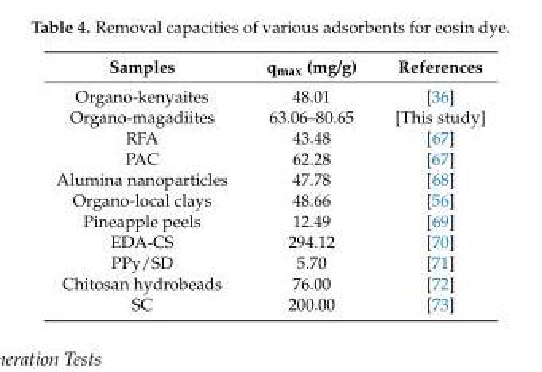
<table><thead><tr><td>Samples</td><td>q<sub>max</sub> (mg/g)</td><td>References</td></tr></thead><tbody><tr><td>Organo-kenyaites</td><td>48.01</td><td>[36]</td></tr><tr><td>Organo-magadiites</td><td>63.06–80.65</td><td>[This study]</td></tr><tr><td>RFA</td><td>43.48</td><td>[67]</td></tr><tr><td>PAC</td><td>62.28</td><td>[67]</td></tr><tr><td>Alumina nanoparticles</td><td>47.78</td><td>[68]</td></tr><tr><td>Organo-local clays</td><td>48.66</td><td>[56]</td></tr><tr><td>Pineapple peels</td><td>12.49</td><td>[69]</td></tr><tr><td>EDA-CS</td><td>294.12</td><td>[70]</td></tr><tr><td>PPy/SD</td><td>5.70</td><td>[71]</td></tr><tr><td>Chitosan hydrobeads</td><td>76.00</td><td>[72]</td></tr><tr><td>SC</td><td>200.00</td><td>[73]</td></tr></tbody></table>